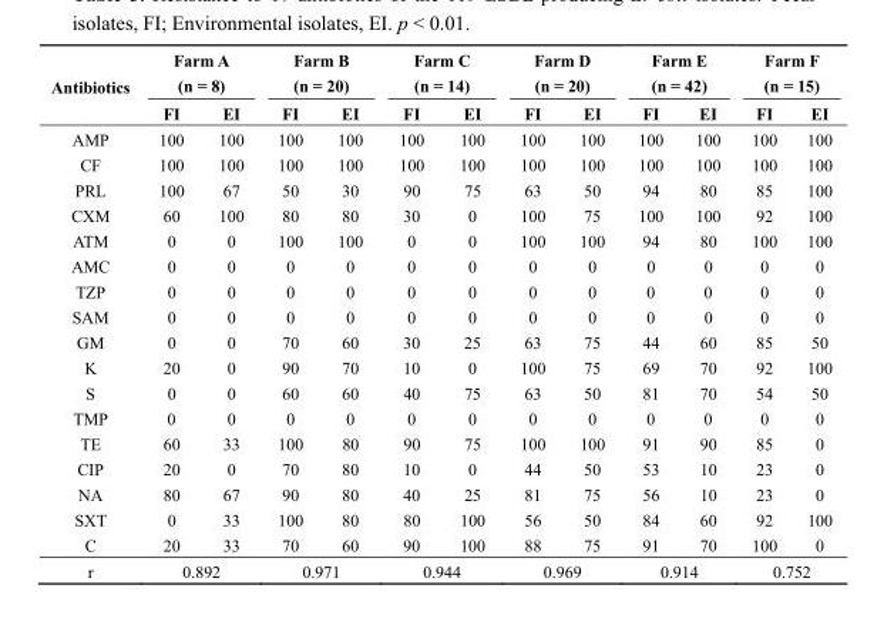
<table><thead><tr><td rowspan="3">Antibiotics</td><td rowspan="2" colspan="2">Farm A (n = 8)</td><td rowspan="2" colspan="2">Farm B (n = 20)</td><td rowspan="2" colspan="2">Farm C (n = 14)</td><td rowspan="2" colspan="2">Farm D (n = 20)</td><td rowspan="2" colspan="2">Farm E (n = 42)</td><td rowspan="2" colspan="2">Farm F (n = 15)</td></tr><tr></tr><tr><td>FI</td><td>EI</td><td>FI</td><td>EI</td><td>FI</td><td>EI</td><td>FI</td><td>EI</td><td>FI</td><td>EI</td><td>FI</td><td>EI</td></tr></thead><tbody><tr><td>AMP</td><td>100</td><td>100</td><td>100</td><td>100</td><td>100</td><td>100</td><td>100</td><td>100</td><td>100</td><td>100</td><td>100</td><td>100</td></tr><tr><td>CF</td><td>100</td><td>100</td><td>100</td><td>100</td><td>100</td><td>100</td><td>100</td><td>100</td><td>100</td><td>100</td><td>100</td><td>100</td></tr><tr><td>PRL</td><td>100</td><td>67</td><td>50</td><td>30</td><td>90</td><td>75</td><td>63</td><td>50</td><td>94</td><td>80</td><td>85</td><td>100</td></tr><tr><td>CXM</td><td>60</td><td>100</td><td>80</td><td>80</td><td>30</td><td>0</td><td>100</td><td>75</td><td>100</td><td>100</td><td>92</td><td>100</td></tr><tr><td>ATM</td><td>0</td><td>0</td><td>100</td><td>100</td><td>0</td><td>0</td><td>100</td><td>100</td><td>94</td><td>80</td><td>100</td><td>100</td></tr><tr><td>AMC</td><td>0</td><td>0</td><td>0</td><td>0</td><td>0</td><td>0</td><td>0</td><td>0</td><td>0</td><td>0</td><td>0</td><td>0</td></tr><tr><td>TZP</td><td>0</td><td>0</td><td>0</td><td>0</td><td>0</td><td>0</td><td>0</td><td>0</td><td>0</td><td>0</td><td>0</td><td>0</td></tr><tr><td>SAM</td><td>0</td><td>0</td><td>0</td><td>0</td><td>0</td><td>0</td><td>0</td><td>0</td><td>0</td><td>0</td><td>0</td><td>0</td></tr><tr><td>GM</td><td>0</td><td>0</td><td>70</td><td>60</td><td>30</td><td>25</td><td>63</td><td>75</td><td>44</td><td>60</td><td>85</td><td>50</td></tr><tr><td>K</td><td>20</td><td>0</td><td>90</td><td>70</td><td>10</td><td>0</td><td>100</td><td>75</td><td>69</td><td>70</td><td>92</td><td>100</td></tr><tr><td>S</td><td>0</td><td>0</td><td>60</td><td>60</td><td>40</td><td>75</td><td>63</td><td>50</td><td>81</td><td>70</td><td>54</td><td>50</td></tr><tr><td>TMP</td><td>0</td><td>0</td><td>0</td><td>0</td><td>0</td><td>0</td><td>0</td><td>0</td><td>0</td><td>0</td><td>0</td><td>0</td></tr><tr><td>TE</td><td>60</td><td>33</td><td>100</td><td>80</td><td>90</td><td>75</td><td>100</td><td>100</td><td>91</td><td>90</td><td>85</td><td>0</td></tr><tr><td>CIP</td><td>20</td><td>0</td><td>70</td><td>80</td><td>10</td><td>0</td><td>44</td><td>50</td><td>53</td><td>10</td><td>23</td><td>0</td></tr><tr><td>NA</td><td>80</td><td>67</td><td>90</td><td>80</td><td>40</td><td>25</td><td>81</td><td>75</td><td>56</td><td>10</td><td>23</td><td>0</td></tr><tr><td>SXT</td><td>0</td><td>33</td><td>100</td><td>80</td><td>80</td><td>100</td><td>56</td><td>50</td><td>84</td><td>60</td><td>92</td><td>100</td></tr><tr><td>C</td><td>20</td><td>33</td><td>70</td><td>60</td><td>90</td><td>100</td><td>88</td><td>75</td><td>91</td><td>70</td><td>100</td><td>0</td></tr><tr><td>r</td><td colspan="2">0.892</td><td colspan="2">0.971</td><td colspan="2">0.944</td><td colspan="2">0.969</td><td colspan="2">0.914</td><td colspan="2">0.752</td></tr></tbody></table>